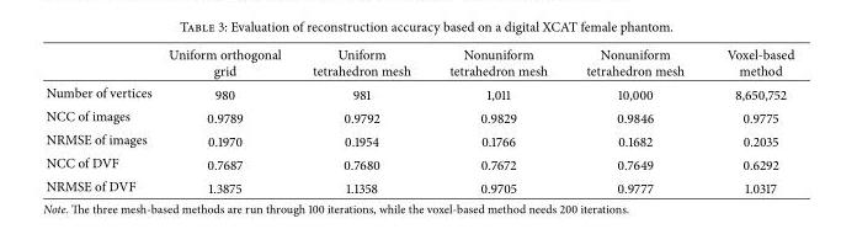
<table><thead><tr><td></td><td>Uniform orthogonal grid</td><td>Uniform tetrahedron mesh</td><td>Nonuniform tetrahedron mesh</td><td>Nonuniform tetrahedron mesh</td><td>Voxel-based method</td></tr></thead><tbody><tr><td>Number of vertices</td><td>980</td><td>981</td><td>1,011</td><td>10,000</td><td>8,650,752</td></tr><tr><td>NCC of images</td><td>0.9789</td><td>0.9792</td><td>0.9829</td><td>0.9846</td><td>0.9775</td></tr><tr><td>NRMSE of images</td><td>0.1970</td><td>0.1954</td><td>0.1766</td><td>0.1682</td><td>0.2035</td></tr><tr><td>NCC of DVF</td><td>0.7687</td><td>0.7680</td><td>0.7672</td><td>0.7649</td><td>0.6292</td></tr><tr><td>NRMSE of DVF</td><td>1.3875</td><td>1.1358</td><td>0.9705</td><td>0.9777</td><td>1.0317</td></tr></tbody></table>